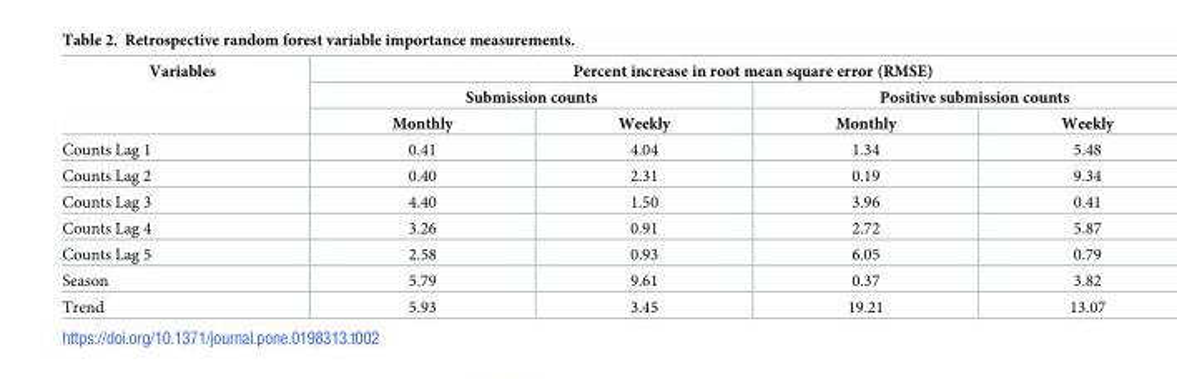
<table><thead><tr><td rowspan="3">Variables</td><td colspan="4">Percent increase in root mean square error (RMSE)</td></tr><tr><td colspan="2">Submission counts</td><td colspan="2">Positive submission counts</td></tr><tr><td>Monthly</td><td>Weekly</td><td>Monthly</td><td>Weekly</td></tr></thead><tbody><tr><td>Counts Lag 1</td><td>0.41</td><td>4.04</td><td>1.34</td><td>5.48</td></tr><tr><td>Counts Lag 2</td><td>0.40</td><td>2.31</td><td>0.19</td><td>9.34</td></tr><tr><td>Counts Lag 3</td><td>4.40</td><td>1.50</td><td>3.96</td><td>0.41</td></tr><tr><td>Counts Lag 4</td><td>3.26</td><td>0.91</td><td>2.72</td><td>5.87</td></tr><tr><td>Counts Lag 5</td><td>2.58</td><td>0.93</td><td>6.05</td><td>0.79</td></tr><tr><td>Season</td><td>5.79</td><td>9.61</td><td>0.37</td><td>3.82</td></tr><tr><td>Trend</td><td>5.93</td><td>3.45</td><td>19.21</td><td>13.07</td></tr></tbody></table>